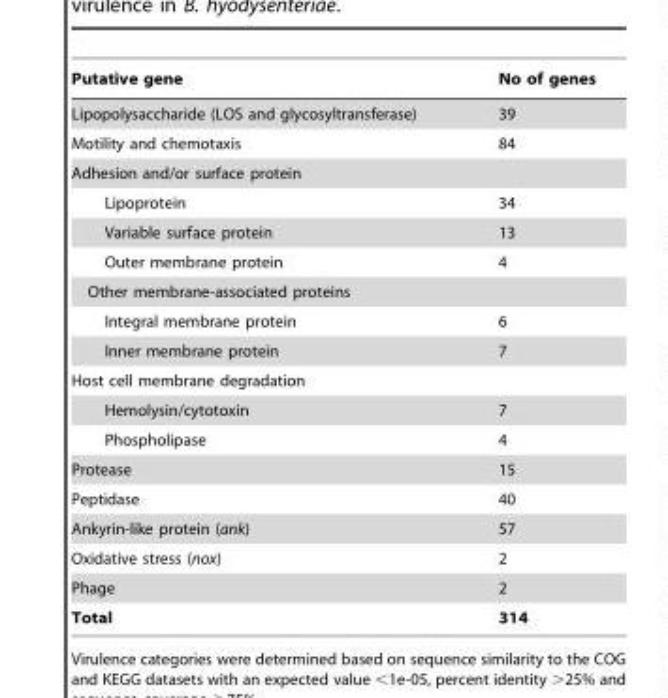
<table><thead><tr><td>Putative gene</td><td>No of genes</td></tr></thead><tbody><tr><td>Lipopolysaccharide (LOS and glycosyltransferase)</td><td>39</td></tr><tr><td>Motility and chemotaxis</td><td>84</td></tr><tr><td colspan="2">Adhesion and/or surface protein</td></tr><tr><td>Lipoprotein</td><td>34</td></tr><tr><td>Variable surface protein</td><td>13</td></tr><tr><td>Outer membrane protein</td><td>4</td></tr><tr><td colspan="2">Other membrane-associated proteins</td></tr><tr><td>Integral membrane protein</td><td>6</td></tr><tr><td>Inner membrane protein</td><td>7</td></tr><tr><td colspan="2">Host cell membrane degradation</td></tr><tr><td>Hemolysin/cytotoxin</td><td>7</td></tr><tr><td>Phospholipase</td><td>4</td></tr><tr><td>Protease</td><td>15</td></tr><tr><td>Peptidase</td><td>40</td></tr><tr><td>Ankyrin-like protein (ank)</td><td>57</td></tr><tr><td>Oxidative stress (nox)</td><td>2</td></tr><tr><td>Phage</td><td>2</td></tr><tr><td>Total</td><td>314</td></tr></tbody></table>